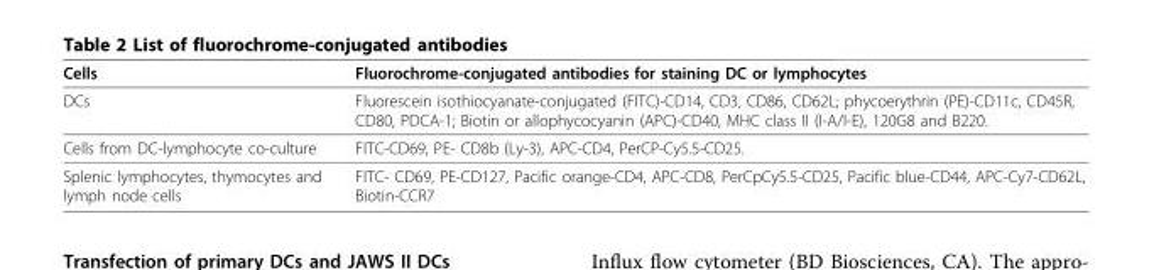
<table><thead><tr><td>Cells</td><td>Fluorochrome-conjugated antibodies for staining DC or lymphocytes</td></tr></thead><tbody><tr><td>DCs</td><td>Fluorescein isothiocyanate-conjugated (FITC)-CD14, CD3, CD86, CD62L; phycoerythrin (PE)-CD11c, CD45R, CD80, PDCA-1; Biotin or allophycocyanin (APC)-CD40, MHC class II (I-A/I-E), 120G8 and B220.</td></tr><tr><td>Cells from DC-lymphocyte co-culture</td><td>FITC-CD69, PE- CD8b (Ly-3), APC-CD4, PerCP-Cy5.5-CD25.</td></tr><tr><td>Splenic lymphocytes, thymocytes and lymph node cells</td><td>FITC- CD69, PE-CD127, Pacific orange-CD4, APC-CD8, PerCpCy5.5-CD25, Pacific blue-CD44, APC-Cy7-CD62L, Biotin-CCR7</td></tr></tbody></table>